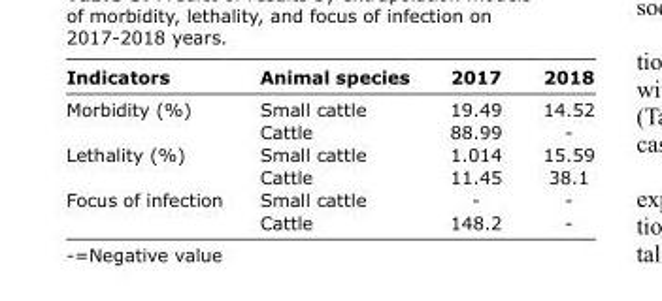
<table><thead><tr><td>Indicators</td><td>Animal species</td><td>2017</td><td>2018</td></tr></thead><tbody><tr><td rowspan="2">Morbidity (%)</td><td>Small cattle</td><td>19.49</td><td>14.52</td></tr><tr><td>Cattle</td><td>88.99</td><td>-</td></tr><tr><td rowspan="2">Lethality (%)</td><td>Small cattle</td><td>1.014</td><td>15.59</td></tr><tr><td>Cattle</td><td>11.45</td><td>38.1</td></tr><tr><td rowspan="2">Focus of infection</td><td>Small cattle</td><td>-</td><td>-</td></tr><tr><td>Cattle</td><td>148.2</td><td>-</td></tr></tbody></table>